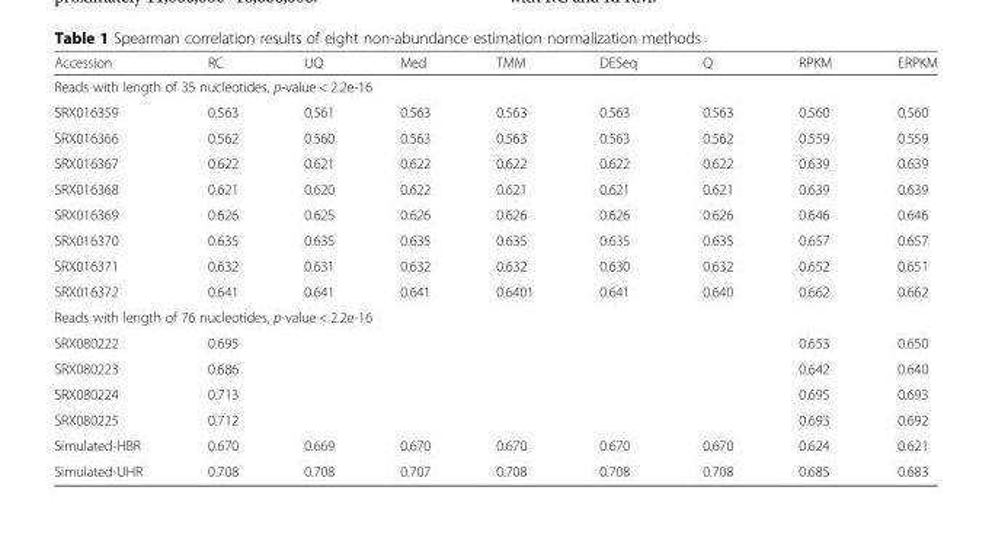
<table><thead><tr><td>Accession</td><td>RC</td><td>UQ</td><td>Med</td><td>TMM</td><td>DESeq</td><td>Q</td><td>RPKM</td><td>ERPKM</td></tr></thead><tbody><tr><td colspan="9">Reads with length of 35 nucleotides, p-value &lt; 2.2e-16</td></tr><tr><td>SRX016359</td><td>0.563</td><td>0.561</td><td>0.563</td><td>0.563</td><td>0.563</td><td>0.563</td><td>0.560</td><td>0.560</td></tr><tr><td>SRX016366</td><td>0.562</td><td>0.560</td><td>0.563</td><td>0.563</td><td>0.563</td><td>0.562</td><td>0.559</td><td>0.559</td></tr><tr><td>SRX016367</td><td>0.622</td><td>0.621</td><td>0.622</td><td>0.622</td><td>0.622</td><td>0.622</td><td>0.639</td><td>0.639</td></tr><tr><td>SRX016368</td><td>0.621</td><td>0.620</td><td>0.622</td><td>0.621</td><td>0.621</td><td>0.621</td><td>0.639</td><td>0.639</td></tr><tr><td>SRX016369</td><td>0.626</td><td>0.625</td><td>0.626</td><td>0.626</td><td>0.626</td><td>0.626</td><td>0.646</td><td>0.646</td></tr><tr><td>SRX016370</td><td>0.635</td><td>0.635</td><td>0.635</td><td>0.635</td><td>0.635</td><td>0.635</td><td>0.657</td><td>0.657</td></tr><tr><td>SRX016371</td><td>0.632</td><td>0.631</td><td>0.632</td><td>0.632</td><td>0.630</td><td>0.632</td><td>0.652</td><td>0.651</td></tr><tr><td>SRX016372</td><td>0.641</td><td>0.641</td><td>0.641</td><td>0.6401</td><td>0.641</td><td>0.640</td><td>0.662</td><td>0.662</td></tr><tr><td colspan="9">Reads with length of 76 nucleotides, p-value &lt; 2.2e-16</td></tr><tr><td>SRX080222</td><td>0.695</td><td></td><td></td><td></td><td></td><td></td><td>0.653</td><td>0.650</td></tr><tr><td>SRX080223</td><td>0.686</td><td></td><td></td><td></td><td></td><td></td><td>0.642</td><td>0.640</td></tr><tr><td>SRX080224</td><td>0.713</td><td></td><td></td><td></td><td></td><td></td><td>0.695</td><td>0.693</td></tr><tr><td>SRX080225</td><td>0.712</td><td></td><td></td><td></td><td></td><td></td><td>0.693</td><td>0.692</td></tr><tr><td>Simulated-HBR</td><td>0.670</td><td>0.669</td><td>0.670</td><td>0.670</td><td>0.670</td><td>0.670</td><td>0.624</td><td>0.621</td></tr><tr><td>Simulated-UHR</td><td>0.708</td><td>0.708</td><td>0.707</td><td>0.708</td><td>0.708</td><td>0.708</td><td>0.685</td><td>0.683</td></tr></tbody></table>